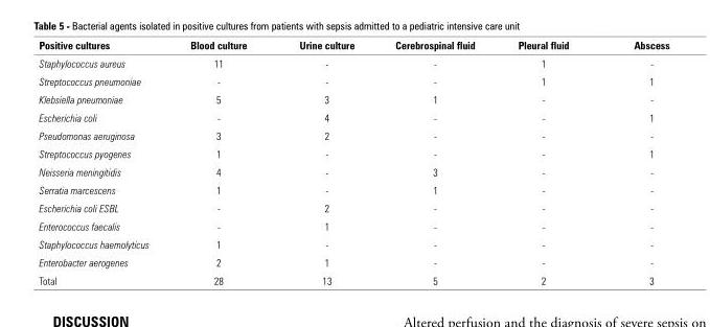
<table><thead><tr><td>Positive cultures</td><td>Blood culture</td><td>Urine culture</td><td>Cerebrospinal fluid</td><td>Pleural fluid</td><td>Abscess</td></tr></thead><tbody><tr><td>Staphylococcus aureus</td><td>11</td><td>-</td><td>-</td><td>1</td><td>-</td></tr><tr><td>Streptococcus pneumoniae</td><td>-</td><td>-</td><td>-</td><td>1</td><td>1</td></tr><tr><td>Klebsiella pneumoniae</td><td>5</td><td>3</td><td>1</td><td>-</td><td>-</td></tr><tr><td>Escherichia coli</td><td>-</td><td>4</td><td>-</td><td>-</td><td>1</td></tr><tr><td>Pseudomonas aeruginosa</td><td>3</td><td>2</td><td>-</td><td>-</td><td>-</td></tr><tr><td>Streptococcus pyogenes</td><td>1</td><td>-</td><td>-</td><td>-</td><td>1</td></tr><tr><td>Neisseria meningitidis</td><td>4</td><td>-</td><td>3</td><td>-</td><td>-</td></tr><tr><td>Serratia marcescens</td><td>1</td><td>-</td><td>1</td><td>-</td><td>-</td></tr><tr><td>Escherichia coli ESBL</td><td>-</td><td>2</td><td>-</td><td>-</td><td>-</td></tr><tr><td>Enterococcus faecalis</td><td>-</td><td>1</td><td>-</td><td>-</td><td>-</td></tr><tr><td>Staphylococcus haemolyticus</td><td>1</td><td>-</td><td>-</td><td>-</td><td>-</td></tr><tr><td>Enterobacter aerogenes</td><td>2</td><td>1</td><td>-</td><td>-</td><td>-</td></tr><tr><td>Total</td><td>28</td><td>13</td><td>5</td><td>2</td><td>3</td></tr></tbody></table>